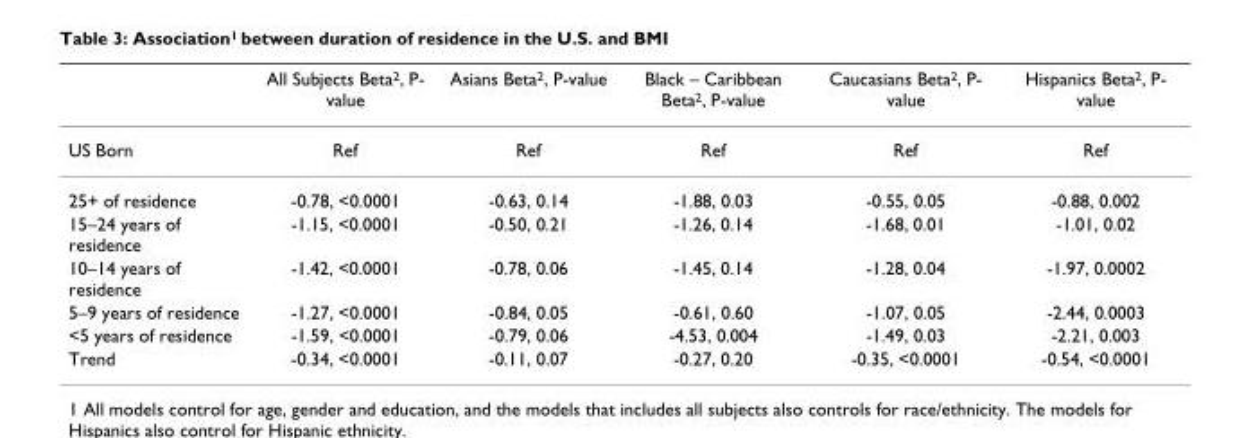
<table><thead><tr><td></td><td>All Subjects Beta<sup>2</sup>, P- value</td><td>Asians Beta<sup>2</sup>, P-value</td><td>Black – Caribbean Beta<sup>2</sup>, P-value</td><td>Caucasians Beta<sup>2</sup>, P- value</td><td>Hispanics Beta<sup>2</sup>, P- value</td></tr></thead><tbody><tr><td>US Born</td><td>Ref</td><td>Ref</td><td>Ref</td><td>Ref</td><td>Ref</td></tr><tr><td>25+ of residence</td><td>-0.78, &lt;0.0001</td><td>-0.63, 0.14</td><td>-1.88, 0.03</td><td>-0.55, 0.05</td><td>-0.88, 0.002</td></tr><tr><td>15–24 years of residence</td><td>-1.15, &lt;0.0001</td><td>-0.50, 0.21</td><td>-1.26, 0.14</td><td>-1.68, 0.01</td><td>-1.01, 0.02</td></tr><tr><td>10–14 years of residence</td><td>-1.42, &lt;0.0001</td><td>-0.78, 0.06</td><td>-1.45, 0.14</td><td>-1.28, 0.04</td><td>-1.97, 0.0002</td></tr><tr><td>5–9 years of residence</td><td>-1.27, &lt;0.0001</td><td>-0.84, 0.05</td><td>-0.61, 0.60</td><td>-1.07, 0.05</td><td>-2.44, 0.0003</td></tr><tr><td>&lt;5 years of residence</td><td>-1.59, &lt;0.0001</td><td>-0.79, 0.06</td><td>-4.53, 0.004</td><td>-1.49, 0.03</td><td>-2.21, 0.003</td></tr><tr><td>Trend</td><td>-0.34, &lt;0.0001</td><td>-0.11, 0.07</td><td>-0.27, 0.20</td><td>-0.35, &lt;0.0001</td><td>-0.54, &lt;0.0001</td></tr></tbody></table>